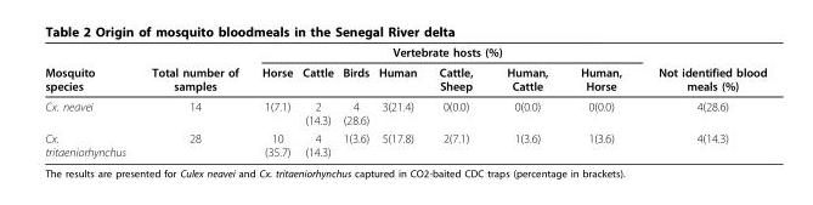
<table><thead><tr><td rowspan="2">Mosquito species</td><td rowspan="2">Total number of samples</td><td colspan="7">Vertebrate hosts (%)</td><td rowspan="2">Not identified blood meals (%)</td></tr><tr><td>Horse</td><td>Cattle</td><td>Birds</td><td>Human</td><td>Cattle, Sheep</td><td>Human, Cattle</td><td>Human, Horse</td></tr></thead><tbody><tr><td>Cx. neavei</td><td>14</td><td>1(7.1)</td><td>2 (14.3)</td><td>4 (28.6)</td><td>3(21.4)</td><td>0(0.0)</td><td>0(0.0)</td><td>0(0.0)</td><td>4(28.6)</td></tr><tr><td>Cx. tritaeniorhynchus</td><td>28</td><td>10 (35.7)</td><td>4 (14.3)</td><td>1(3.6)</td><td>5(17.8)</td><td>2(7.1)</td><td>1(3.6)</td><td>1(3.6)</td><td>4(14.3)</td></tr></tbody></table>